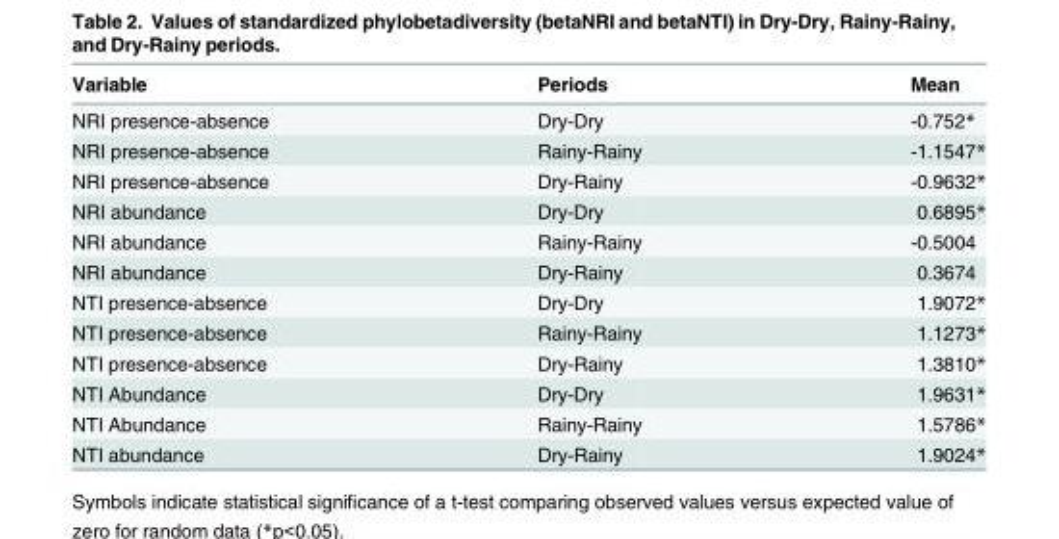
<table><thead><tr><td>Variable</td><td>Periods</td><td>Mean</td></tr></thead><tbody><tr><td>NRI presence-absence</td><td>Dry-Dry</td><td>-0.752*</td></tr><tr><td>NRI presence-absence</td><td>Rainy-Rainy</td><td>-1.1547*</td></tr><tr><td>NRI presence-absence</td><td>Dry-Rainy</td><td>-0.9632*</td></tr><tr><td>NRI abundance</td><td>Dry-Dry</td><td>0.6895*</td></tr><tr><td>NRI abundance</td><td>Rainy-Rainy</td><td>-0.5004</td></tr><tr><td>NRI abundance</td><td>Dry-Rainy</td><td>0.3674</td></tr><tr><td>NTI presence-absence</td><td>Dry-Dry</td><td>1.9072*</td></tr><tr><td>NTI presence-absence</td><td>Rainy-Rainy</td><td>1.1273*</td></tr><tr><td>NTI presence-absence</td><td>Dry-Rainy</td><td>1.3810*</td></tr><tr><td>NTI Abundance</td><td>Dry-Dry</td><td>1.9631*</td></tr><tr><td>NTI Abundance</td><td>Rainy-Rainy</td><td>1.5786*</td></tr><tr><td>NTI abundance</td><td>Dry-Rainy</td><td>1.9024*</td></tr></tbody></table>